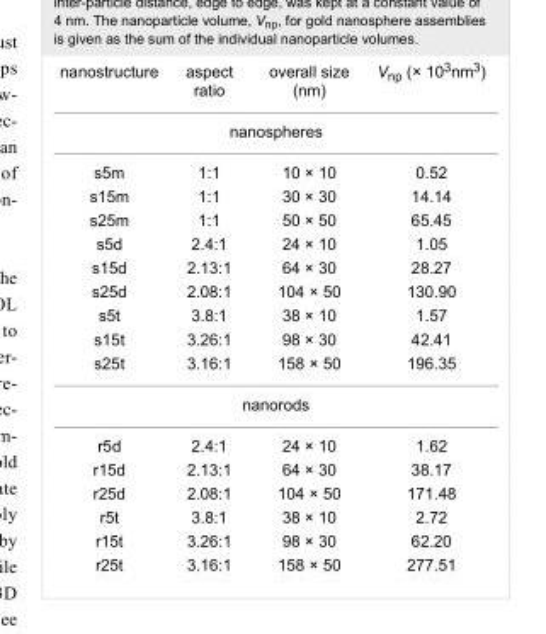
<table><tbody><tr><td>nanostructure</td><td>aspect ratio</td><td>overall size (nm)</td><td>V<sub>np</sub> (× 10<sup>3</sup>nm<sup>3</sup>)</td></tr><tr><td colspan="4">nanospheres</td></tr><tr><td>s5m</td><td>1:1</td><td>10 × 10</td><td>0.52</td></tr><tr><td>s15m</td><td>1:1</td><td>30 × 30</td><td>14.14</td></tr><tr><td>s25m</td><td>1:1</td><td>50 × 50</td><td>65.45</td></tr><tr><td>s5d</td><td>2.4:1</td><td>24 × 10</td><td>1.05</td></tr><tr><td>s15d</td><td>2.13:1</td><td>64 × 30</td><td>28.27</td></tr><tr><td>s25d</td><td>2.08:1</td><td>104 × 50</td><td>130.90</td></tr><tr><td>s5t</td><td>3.8:1</td><td>38 × 10</td><td>1.57</td></tr><tr><td>s15t</td><td>3.26:1</td><td>98 × 30</td><td>42.41</td></tr><tr><td>s25t</td><td>3.16:1</td><td>158 × 50</td><td>196.35</td></tr><tr><td colspan="4">nanorods</td></tr><tr><td>r5d</td><td>2.4:1</td><td>24 × 10</td><td>1.62</td></tr><tr><td>r15d</td><td>2.13:1</td><td>64 × 30</td><td>38.17</td></tr><tr><td>r25d</td><td>2.08:1</td><td>104 × 50</td><td>171.48</td></tr><tr><td>r5t</td><td>3.8:1</td><td>38 × 10</td><td>2.72</td></tr><tr><td>r15t</td><td>3.26:1</td><td>98 × 30</td><td>62.20</td></tr><tr><td>r25t</td><td>3.16:1</td><td>158 × 50</td><td>277.51</td></tr></tbody></table>